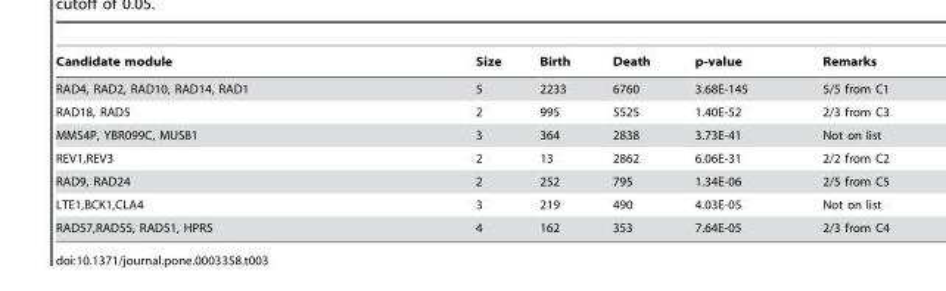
<table><thead><tr><td>Candidate module</td><td>Size</td><td>Birth</td><td>Death</td><td>p-value</td><td>Remarks</td></tr></thead><tbody><tr><td>RAD4, RAD2, RAD10, RAD14, RAD1</td><td>5</td><td>2233</td><td>6760</td><td>3.68E-145</td><td>5/5 from C1</td></tr><tr><td>RAD18, RAD5</td><td>2</td><td>995</td><td>5525</td><td>1.40E-52</td><td>2/3 from C3</td></tr><tr><td>MMS4P, YBR099C, MUS81</td><td>3</td><td>364</td><td>2838</td><td>3.73E-41</td><td>Not on list</td></tr><tr><td>REV1,REV3</td><td>2</td><td>13</td><td>2862</td><td>6.06E-31</td><td>2/2 from C2</td></tr><tr><td>RAD9, RAD24</td><td>2</td><td>252</td><td>795</td><td>1.34E-06</td><td>2/5 from C5</td></tr><tr><td>LTE1,BCK1,CLA4</td><td>3</td><td>219</td><td>490</td><td>4.03E-05</td><td>Not on list</td></tr><tr><td>RAD57,RAD55, RAD51, HPR5</td><td>4</td><td>162</td><td>353</td><td>7.64E-05</td><td>2/3 from C4</td></tr></tbody></table>